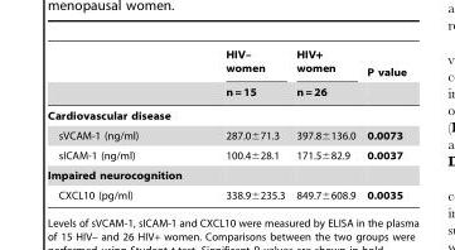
<table><thead><tr><td rowspan="2"></td><td rowspan="2">HIV– women n = 15</td><td rowspan="2">HIV+ women n = 26</td><td rowspan="2">P value</td></tr><tr></tr></thead><tbody><tr><td colspan="4">Cardiovascular disease</td></tr><tr><td>sVCAM-1 (ng/ml)</td><td>287.0±71.3</td><td>397.8±136.0</td><td>0.0073</td></tr><tr><td>sICAM-1 (ng/ml)</td><td>100.4±28.1</td><td>171.5±82.9</td><td>0.0037</td></tr><tr><td colspan="4">Impaired neurocognition</td></tr><tr><td>CXCL10 (pg/ml)</td><td>338.9±235.3</td><td>849.7±608.9</td><td>0.0035</td></tr></tbody></table>